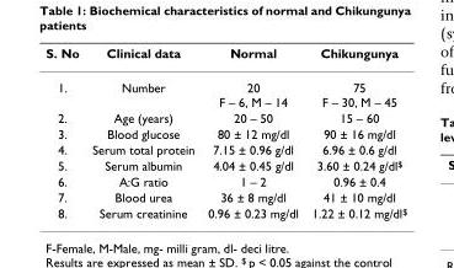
<table><thead><tr><td>S. No</td><td>Clinical data</td><td>Normal</td><td>Chikungunya</td></tr></thead><tbody><tr><td>1.</td><td>Number</td><td>20 F – 6, M – 14</td><td>75 F – 30, M – 45</td></tr><tr><td>2.</td><td>Age (years)</td><td>20 – 50</td><td>15 – 60</td></tr><tr><td>3.</td><td>Blood glucose</td><td>80 ± 12 mg/dl</td><td>90 ± 16 mg/dl</td></tr><tr><td>4.</td><td>Serum total protein</td><td>7.15 ± 0.96 g/dl</td><td>6.96 ± 0.6 g/dl</td></tr><tr><td>5.</td><td>Serum albumin</td><td>4.04 ± 0.45 g/dl</td><td>3.60 ± 0.24 g/dl<sup>$</sup></td></tr><tr><td>6.</td><td>A:G ratio</td><td>1 – 2</td><td>0.96 ± 0.4</td></tr><tr><td>7.</td><td>Blood urea</td><td>36 ± 8 mg/dl</td><td>41 ± 10 mg/dl</td></tr><tr><td>8.</td><td>Serum creatinine</td><td>0.96 ± 0.23 mg/dl</td><td>1.22 ± 0.12 mg/dl<sup>$</sup></td></tr></tbody></table>